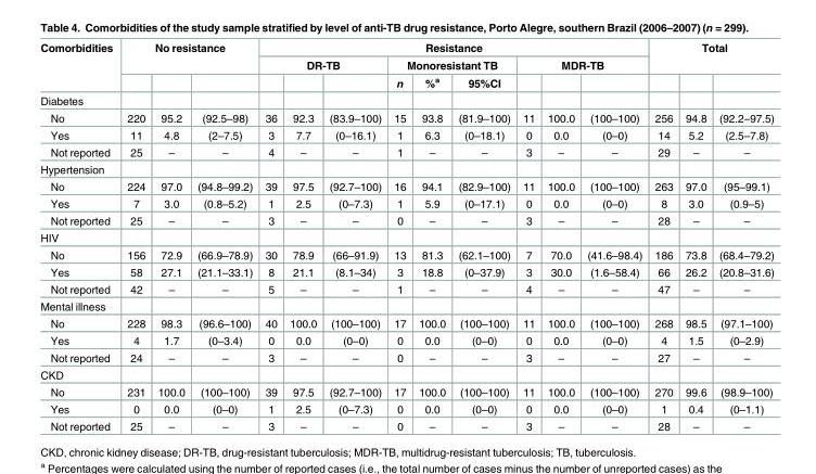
<table><thead><tr><td rowspan="3">Comorbidities</td><td rowspan="2" colspan="3">No resistance</td><td colspan="9">Resistance</td><td rowspan="2" colspan="3">Total</td></tr><tr><td colspan="3">DR-TB</td><td colspan="3">Monoresistant TB</td><td colspan="3">MDR-TB</td></tr><tr><td></td><td></td><td></td><td></td><td></td><td></td><td>n</td><td>%<sup>a</sup></td><td>95%CI</td><td></td><td></td><td></td><td></td><td></td><td></td></tr></thead><tbody><tr><td colspan="16">Diabetes</td></tr><tr><td>No</td><td>220</td><td>95.2</td><td>(92.5–98)</td><td>36</td><td>92.3</td><td>(83.9–100)</td><td>15</td><td>93.8</td><td>(81.9–100)</td><td>11</td><td>100.0</td><td>(100–100)</td><td>256</td><td>94.8</td><td>(92.2–97.5)</td></tr><tr><td>Yes</td><td>11</td><td>4.8</td><td>(2–7.5)</td><td>3</td><td>7.7</td><td>(0–16.1)</td><td>1</td><td>6.3</td><td>(0–18.1)</td><td>0</td><td>0.0</td><td>(0–0)</td><td>14</td><td>5.2</td><td>(2.5–7.8)</td></tr><tr><td>Not reported</td><td>25</td><td>–</td><td>–</td><td>4</td><td>–</td><td>–</td><td>1</td><td>–</td><td>–</td><td>3</td><td>–</td><td>–</td><td>29</td><td>–</td><td>–</td></tr><tr><td colspan="16">Hypertension</td></tr><tr><td>No</td><td>224</td><td>97.0</td><td>(94.8–99.2)</td><td>39</td><td>97.5</td><td>(92.7–100)</td><td>16</td><td>94.1</td><td>(82.9–100)</td><td>11</td><td>100.0</td><td>(100–100)</td><td>263</td><td>97.0</td><td>(95–99.1)</td></tr><tr><td>Yes</td><td>7</td><td>3.0</td><td>(0.8–5.2)</td><td>1</td><td>2.5</td><td>(0–7.3)</td><td>1</td><td>5.9</td><td>(0–17.1)</td><td>0</td><td>0.0</td><td>(0–0)</td><td>8</td><td>3.0</td><td>(0.9–5)</td></tr><tr><td>Not reported</td><td>25</td><td>–</td><td>–</td><td>3</td><td>–</td><td>–</td><td>0</td><td>–</td><td>–</td><td>3</td><td>–</td><td>–</td><td>28</td><td>–</td><td>–</td></tr><tr><td colspan="16">HIV</td></tr><tr><td>No</td><td>156</td><td>72.9</td><td>(66.9–78.9)</td><td>30</td><td>78.9</td><td>(66–91.9)</td><td>13</td><td>81.3</td><td>(62.1–100)</td><td>7</td><td>70.0</td><td>(41.6–98.4)</td><td>186</td><td>73.8</td><td>(68.4–79.2)</td></tr><tr><td>Yes</td><td>58</td><td>27.1</td><td>(21.1–33.1)</td><td>8</td><td>21.1</td><td>(8.1–34)</td><td>3</td><td>18.8</td><td>(0–37.9)</td><td>3</td><td>30.0</td><td>(1.6–58.4)</td><td>66</td><td>26.2</td><td>(20.8–31.6)</td></tr><tr><td>Not reported</td><td>42</td><td>–</td><td>–</td><td>5</td><td>–</td><td>–</td><td>1</td><td>–</td><td>–</td><td>4</td><td>–</td><td>–</td><td>47</td><td>–</td><td>–</td></tr><tr><td colspan="16">Mental illness</td></tr><tr><td>No</td><td>228</td><td>98.3</td><td>(96.6–100)</td><td>40</td><td>100.0</td><td>(100–100)</td><td>17</td><td>100.0</td><td>(100–100)</td><td>11</td><td>100.0</td><td>(100–100)</td><td>268</td><td>98.5</td><td>(97.1–100)</td></tr><tr><td>Yes</td><td>4</td><td>1.7</td><td>(0–3.4)</td><td>0</td><td>0.0</td><td>(0–0)</td><td>0</td><td>0.0</td><td>(0–0)</td><td>0</td><td>0.0</td><td>(0–0)</td><td>4</td><td>1.5</td><td>(0–2.9)</td></tr><tr><td>Not reported</td><td>24</td><td>–</td><td>–</td><td>3</td><td>–</td><td>–</td><td>0</td><td>–</td><td>–</td><td>3</td><td>–</td><td>–</td><td>27</td><td>–</td><td>–</td></tr><tr><td colspan="16">CKD</td></tr><tr><td>No</td><td>231</td><td>100.0</td><td>(100–100)</td><td>39</td><td>97.5</td><td>(92.7–100)</td><td>17</td><td>100.0</td><td>(100–100)</td><td>11</td><td>100.0</td><td>(100–100)</td><td>270</td><td>99.6</td><td>(98.9–100)</td></tr><tr><td>Yes</td><td>0</td><td>0.0</td><td>(0–0)</td><td>1</td><td>2.5</td><td>(0–7.3)</td><td>0</td><td>0.0</td><td>(0–0)</td><td>0</td><td>0.0</td><td>(0–0)</td><td>1</td><td>0.4</td><td>(0–1.1)</td></tr><tr><td>Not reported</td><td>25</td><td>–</td><td>–</td><td>3</td><td>–</td><td>–</td><td>0</td><td>–</td><td>–</td><td>3</td><td>–</td><td>–</td><td>28</td><td>–</td><td>–</td></tr></tbody></table>